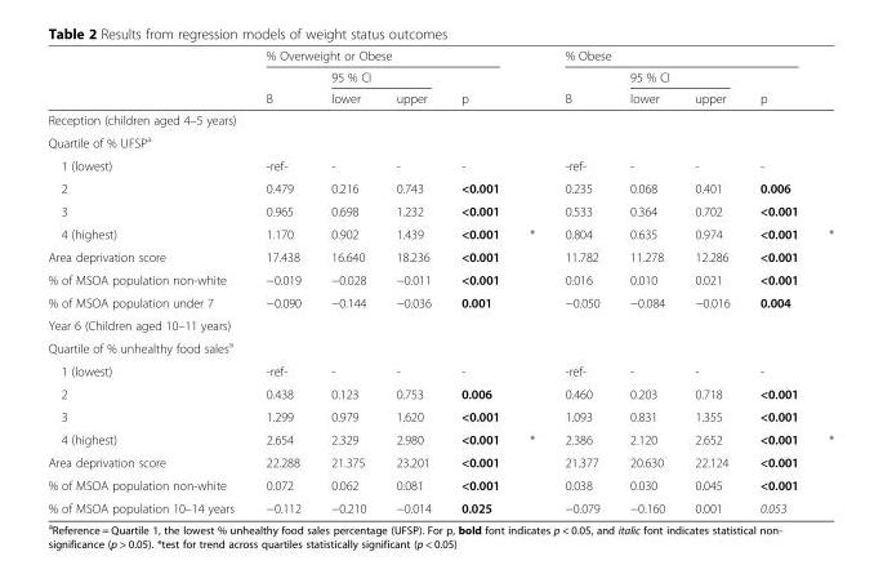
<table><thead><tr><td rowspan="3"></td><td colspan="4">% Overweight or Obese</td><td rowspan="3"></td><td colspan="4">% Obese</td><td rowspan="3"></td></tr><tr><td rowspan="2">B</td><td colspan="2">95 % CI</td><td rowspan="2">p</td><td rowspan="2">B</td><td colspan="2">95 % CI</td><td rowspan="2">p</td></tr><tr><td>lower</td><td>upper</td><td>lower</td><td>upper</td></tr></thead><tbody><tr><td colspan="11">Reception (children aged 4–5 years)</td></tr><tr><td colspan="11">Quartile of % UFSP<sup>a</sup></td></tr><tr><td>1 (lowest)</td><td>-ref-</td><td>-</td><td>-</td><td>-</td><td></td><td>-ref-</td><td>-</td><td>-</td><td>-</td><td></td></tr><tr><td>2</td><td>0.479</td><td>0.216</td><td>0.743</td><td>&lt;0.001</td><td></td><td>0.235</td><td>0.068</td><td>0.401</td><td>0.006</td><td></td></tr><tr><td>3</td><td>0.965</td><td>0.698</td><td>1.232</td><td>&lt;0.001</td><td></td><td>0.533</td><td>0.364</td><td>0.702</td><td>&lt;0.001</td><td></td></tr><tr><td>4 (highest)</td><td>1.170</td><td>0.902</td><td>1.439</td><td>&lt;0.001</td><td>*</td><td>0.804</td><td>0.635</td><td>0.974</td><td>&lt;0.001</td><td>*</td></tr><tr><td>Area deprivation score</td><td>17.438</td><td>16.640</td><td>18.236</td><td>&lt;0.001</td><td></td><td>11.782</td><td>11.278</td><td>12.286</td><td>&lt;0.001</td><td></td></tr><tr><td>% of MSOA population non-white</td><td>−0.019</td><td>−0.028</td><td>−0.011</td><td>&lt;0.001</td><td></td><td>0.016</td><td>0.010</td><td>0.021</td><td>&lt;0.001</td><td></td></tr><tr><td>% of MSOA population under 7</td><td>−0.090</td><td>−0.144</td><td>−0.036</td><td>0.001</td><td></td><td>−0.050</td><td>−0.084</td><td>−0.016</td><td>0.004</td><td></td></tr><tr><td colspan="11">Year 6 (Children aged 10–11 years)</td></tr><tr><td colspan="11">Quartile of % unhealthy food sales<sup>a</sup></td></tr><tr><td>1 (lowest)</td><td>-ref-</td><td>-</td><td>-</td><td>-</td><td></td><td>-ref-</td><td>-</td><td>-</td><td>-</td><td></td></tr><tr><td>2</td><td>0.438</td><td>0.123</td><td>0.753</td><td>0.006</td><td></td><td>0.460</td><td>0.203</td><td>0.718</td><td>&lt;0.001</td><td></td></tr><tr><td>3</td><td>1.299</td><td>0.979</td><td>1.620</td><td>&lt;0.001</td><td></td><td>1.093</td><td>0.831</td><td>1.355</td><td>&lt;0.001</td><td></td></tr><tr><td>4 (highest)</td><td>2.654</td><td>2.329</td><td>2.980</td><td>&lt;0.001</td><td>*</td><td>2.386</td><td>2.120</td><td>2.652</td><td>&lt;0.001</td><td>*</td></tr><tr><td>Area deprivation score</td><td>22.288</td><td>21.375</td><td>23.201</td><td>&lt;0.001</td><td></td><td>21.377</td><td>20.630</td><td>22.124</td><td>&lt;0.001</td><td></td></tr><tr><td>% of MSOA population non-white</td><td>0.072</td><td>0.062</td><td>0.081</td><td>&lt;0.001</td><td></td><td>0.038</td><td>0.030</td><td>0.045</td><td>&lt;0.001</td><td></td></tr><tr><td>% of MSOA population 10–14 years</td><td>−0.112</td><td>−0.210</td><td>−0.014</td><td>0.025</td><td></td><td>−0.079</td><td>−0.160</td><td>0.001</td><td>0.053</td><td></td></tr></tbody></table>